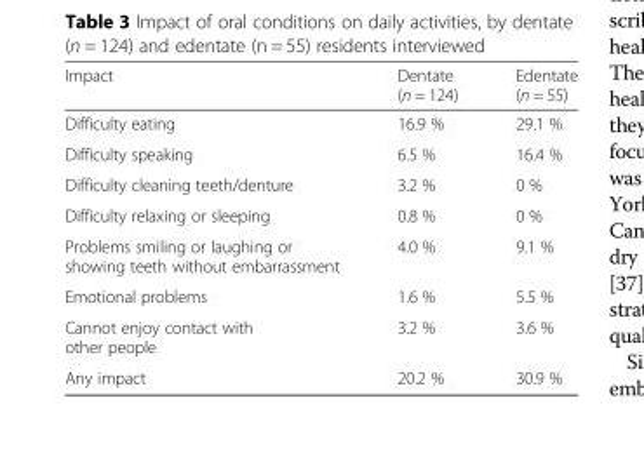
<table><thead><tr><td>Impact</td><td>Dentate (n = 124)</td><td>Edentate (n = 55)</td></tr></thead><tbody><tr><td>Difficulty eating</td><td>16.9 %</td><td>29.1 %</td></tr><tr><td>Difficulty speaking</td><td>6.5 %</td><td>16.4 %</td></tr><tr><td>Difficulty cleaning teeth/denture</td><td>3.2 %</td><td>0 %</td></tr><tr><td>Difficulty relaxing or sleeping</td><td>0.8 %</td><td>0 %</td></tr><tr><td>Problems smiling or laughing or showing teeth without embarrassment</td><td>4.0 %</td><td>9.1 %</td></tr><tr><td>Emotional problems</td><td>1.6 %</td><td>5.5 %</td></tr><tr><td>Cannot enjoy contact with other people</td><td>3.2 %</td><td>3.6 %</td></tr><tr><td>Any impact</td><td>20.2 %</td><td>30.9 %</td></tr></tbody></table>